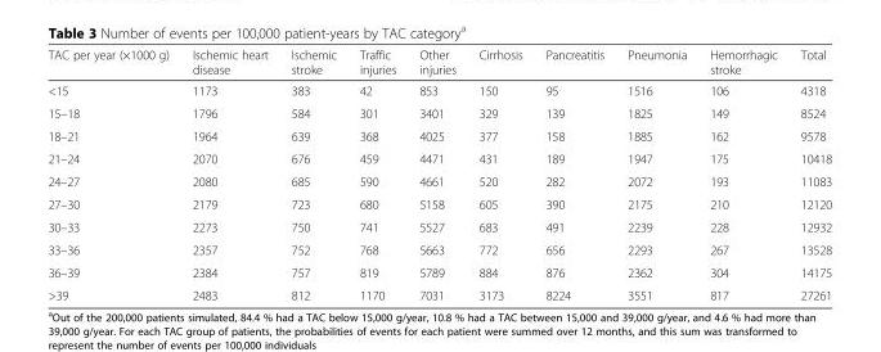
<table><thead><tr><td>TAC per year (×1000 g)</td><td>Ischemic heart disease</td><td>Ischemic stroke</td><td>Traffic injuries</td><td>Other injuries</td><td>Cirrhosis</td><td>Pancreatitis</td><td>Pneumonia</td><td>Hemorrhagic stroke</td><td>Total</td></tr></thead><tbody><tr><td>&lt;15</td><td>1173</td><td>383</td><td>42</td><td>853</td><td>150</td><td>95</td><td>1516</td><td>106</td><td>4318</td></tr><tr><td>15–18</td><td>1796</td><td>584</td><td>301</td><td>3401</td><td>329</td><td>139</td><td>1825</td><td>149</td><td>8524</td></tr><tr><td>18–21</td><td>1964</td><td>639</td><td>368</td><td>4025</td><td>377</td><td>158</td><td>1885</td><td>162</td><td>9578</td></tr><tr><td>21–24</td><td>2070</td><td>676</td><td>459</td><td>4471</td><td>431</td><td>189</td><td>1947</td><td>175</td><td>10418</td></tr><tr><td>24–27</td><td>2080</td><td>685</td><td>590</td><td>4661</td><td>520</td><td>282</td><td>2072</td><td>193</td><td>11083</td></tr><tr><td>27–30</td><td>2179</td><td>723</td><td>680</td><td>5158</td><td>605</td><td>390</td><td>2175</td><td>210</td><td>12120</td></tr><tr><td>30–33</td><td>2273</td><td>750</td><td>741</td><td>5527</td><td>683</td><td>491</td><td>2239</td><td>228</td><td>12932</td></tr><tr><td>33–36</td><td>2357</td><td>752</td><td>768</td><td>5663</td><td>772</td><td>656</td><td>2293</td><td>267</td><td>13528</td></tr><tr><td>36–39</td><td>2384</td><td>757</td><td>819</td><td>5789</td><td>884</td><td>876</td><td>2362</td><td>304</td><td>14175</td></tr><tr><td>&gt;39</td><td>2483</td><td>812</td><td>1170</td><td>7031</td><td>3173</td><td>8224</td><td>3551</td><td>817</td><td>27261</td></tr></tbody></table>